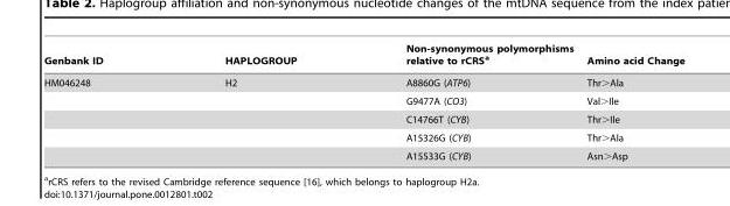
<table><thead><tr><td>Genbank ID</td><td>HAPLOGROUP</td><td>Non-synonymous polymorphisms relative to rCRS<sup>a</sup></td><td>Amino acid Change</td></tr></thead><tbody><tr><td rowspan="5">HM046248</td><td>H2</td><td>A8860G (ATP6)</td><td>Thr&gt;Ala</td></tr><tr><td></td><td>G9477A (CO3)</td><td>Val&gt;Ile</td></tr><tr><td></td><td>C14766T (CYB)</td><td>Thr&gt;Ile</td></tr><tr><td></td><td>A15326G (CYB)</td><td>Thr&gt;Ala</td></tr><tr><td></td><td>A15533G (CYB)</td><td>Asn&gt;Asp</td></tr></tbody></table>